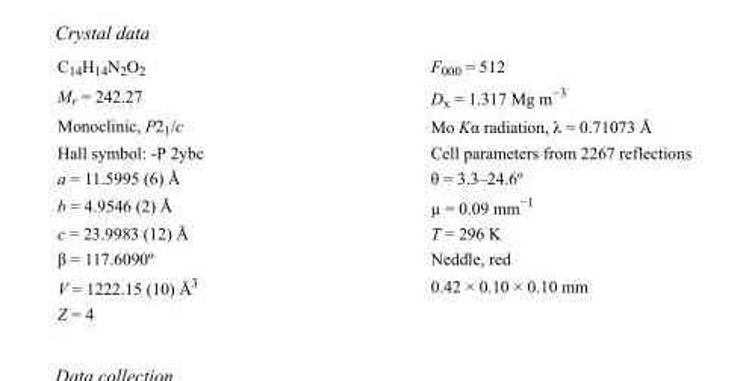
<table><tbody><tr><td>C<sub>14</sub>H<sub>14</sub>N<sub>2</sub>O<sub>2</sub></td><td>F000 = 512</td></tr><tr><td>M<sub>r</sub> = 242.27</td><td>D<sub>x</sub> = 1.317 Mg m<sup>−3</sup></td></tr><tr><td>Monoclinic, P2<sub>1</sub>/c</td><td>Mo Kα radiation, λ = 0.71073 Å</td></tr><tr><td>Hall symbol: -P 2ybc</td><td>Cell parameters from 2267 reflections</td></tr><tr><td>a = 11.5995 (6) Å</td><td>θ = 3.3–24.6º</td></tr><tr><td>b = 4.9546 (2) Å</td><td>µ = 0.09 mm<sup>−1</sup></td></tr><tr><td>c = 23.9983 (12) Å</td><td>T = 296 K</td></tr><tr><td>β = 117.6090º</td><td>Neddle, red</td></tr><tr><td>V = 1222.15 (10) Å<sup>3</sup></td><td>0.42 × 0.10 × 0.10 mm</td></tr><tr><td>Z = 4</td><td></td></tr></tbody></table>